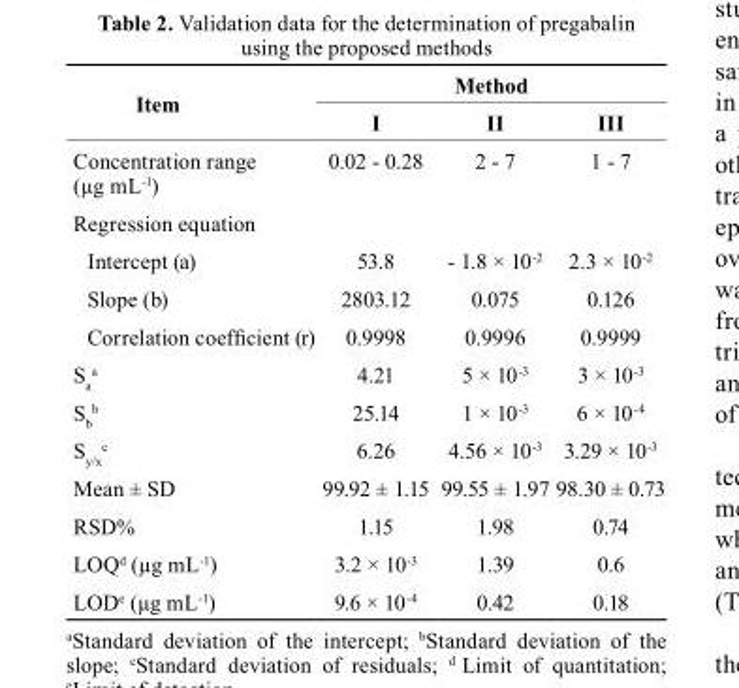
<table><thead><tr><td rowspan="2">Item</td><td colspan="3">Method</td></tr><tr><td>I</td><td>II</td><td>III</td></tr></thead><tbody><tr><td>Concentration range (µg mL<sup>-1</sup>)</td><td>0.02 - 0.28</td><td>2 - 7</td><td>1 - 7</td></tr><tr><td colspan="4">Regression equation</td></tr><tr><td>Intercept (a)</td><td>53.8</td><td>- 1.8 × 10<sup>-2</sup></td><td>2.3 × 10<sup>-2</sup></td></tr><tr><td>Slope (b)</td><td>2803.12</td><td>0.075</td><td>0.126</td></tr><tr><td>Correlation coefficient (r)</td><td>0.9998</td><td>0.9996</td><td>0.9999</td></tr><tr><td>S<sub>a</sub> <sup>a</sup></td><td>4.21</td><td>5 × 10<sup>-3</sup></td><td>3 × 10<sup>-3</sup></td></tr><tr><td>S<sub>b</sub> <sup>b</sup></td><td>25.14</td><td>1 × 10<sup>-3</sup></td><td>6 × 10<sup>-4</sup></td></tr><tr><td>S<sub>y/x</sub> <sup>c</sup></td><td>6.26</td><td>4.56 × 10<sup>-3</sup></td><td>3.29 × 10<sup>-3</sup></td></tr><tr><td>Mean ± SD</td><td>99.92 ± 1.15</td><td>99.55 ± 1.97</td><td>98.30 ± 0.73</td></tr><tr><td>RSD%</td><td>1.15</td><td>1.98</td><td>0.74</td></tr><tr><td>LOQ<sup>d</sup> (µg mL<sup>-1</sup>)</td><td>3.2 × 10<sup>-3</sup></td><td>1.39</td><td>0.6</td></tr><tr><td>LOD<sup>e</sup> (µg mL<sup>-1</sup>)</td><td>9.6 × 10<sup>-4</sup></td><td>0.42</td><td>0.18</td></tr></tbody></table>